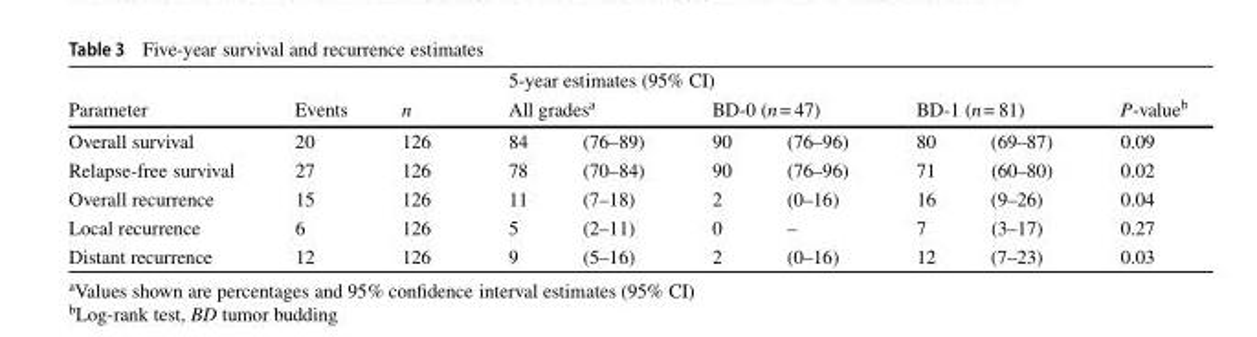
<table><thead><tr><td rowspan="3">Parameter Overall survival</td><td rowspan="3">Events 20</td><td rowspan="3">n 126</td><td colspan="6">5-year estimates (95% CI)</td><td rowspan="3">P-value<sup>b</sup> 0.09</td></tr><tr><td colspan="2">All grades<sup>a</sup></td><td colspan="2">BD-0 (n= 47)</td><td colspan="2">BD-1 (n= 81)</td></tr><tr><td>84</td><td>(76–89)</td><td>90</td><td>(76–96)</td><td>80</td><td>(69–87)</td></tr></thead><tbody><tr><td>Relapse-free survival</td><td>27</td><td>126</td><td>78</td><td>(70–84)</td><td>90</td><td>(76–96)</td><td>71</td><td>(60–80)</td><td>0.02</td></tr><tr><td>Overall recurrence</td><td>15</td><td>126</td><td>11</td><td>(7–18)</td><td>2</td><td>(0–16)</td><td>16</td><td>(9–26)</td><td>0.04</td></tr><tr><td>Local recurrence</td><td>6</td><td>126</td><td>5</td><td>(2–11)</td><td>0</td><td>–</td><td>7</td><td>(3–17)</td><td>0.27</td></tr><tr><td>Distant recurrence</td><td>12</td><td>126</td><td>9</td><td>(5–16)</td><td>2</td><td>(0–16)</td><td>12</td><td>(7–23)</td><td>0.03</td></tr></tbody></table>